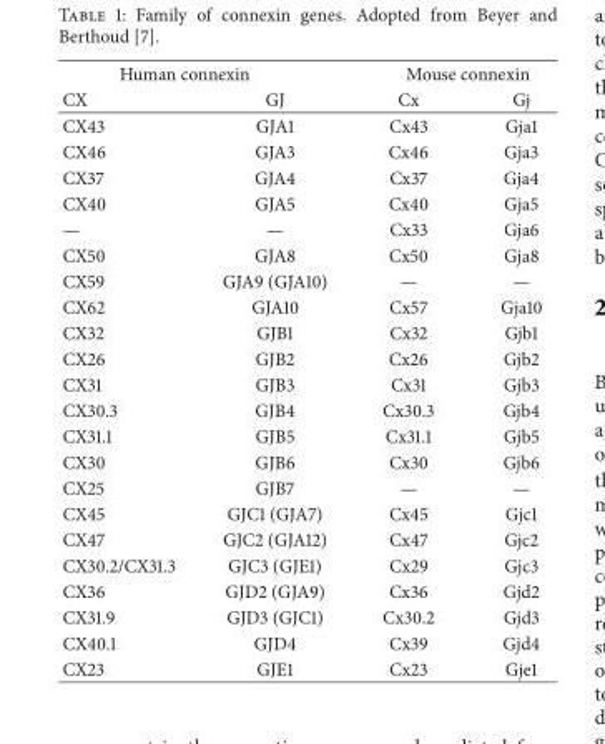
<table><thead><tr><td colspan="2">Human connexin</td><td colspan="2">Mouse connexin</td></tr><tr><td>CX</td><td>GJ</td><td>Cx</td><td>Gj</td></tr></thead><tbody><tr><td>CX43</td><td>GJA1</td><td>Cx43</td><td>Gja1</td></tr><tr><td>CX46</td><td>GJA3</td><td>Cx46</td><td>Gja3</td></tr><tr><td>CX37</td><td>GJA4</td><td>Cx37</td><td>Gja4</td></tr><tr><td>CX40</td><td>GJA5</td><td>Cx40</td><td>Gja5</td></tr><tr><td>—</td><td>—</td><td>Cx33</td><td>Gja6</td></tr><tr><td>CX50</td><td>GJA8</td><td>Cx50</td><td>Gja8</td></tr><tr><td>CX59</td><td>GJA9 (GJA10)</td><td>—</td><td>—</td></tr><tr><td>CX62</td><td>GJA10</td><td>Cx57</td><td>Gja10</td></tr><tr><td>CX32</td><td>GJB1</td><td>Cx32</td><td>Gjb1</td></tr><tr><td>CX26</td><td>GJB2</td><td>Cx26</td><td>Gjb2</td></tr><tr><td>CX31</td><td>GJB3</td><td>Cx31</td><td>Gjb3</td></tr><tr><td>CX30.3</td><td>GJB4</td><td>Cx30.3</td><td>Gjb4</td></tr><tr><td>CX31.1</td><td>GJB5</td><td>Cx31.1</td><td>Gjb5</td></tr><tr><td>CX30</td><td>GJB6</td><td>Cx30</td><td>Gjb6</td></tr><tr><td>CX25</td><td>GJB7</td><td>—</td><td>—</td></tr><tr><td>CX45</td><td>GJC1 (GJA7)</td><td>Cx45</td><td>Gjc1</td></tr><tr><td>CX47</td><td>GJC2 (GJA12)</td><td>Cx47</td><td>Gjc2</td></tr><tr><td>CX30.2/CX31.3</td><td>GJC3 (GJE1)</td><td>Cx29</td><td>Gjc3</td></tr><tr><td>CX36</td><td>GJD2 (GJA9)</td><td>Cx36</td><td>Gjd2</td></tr><tr><td>CX31.9</td><td>GJD3 (GJC1)</td><td>Cx30.2</td><td>Gjd3</td></tr><tr><td>CX40.1</td><td>GJD4</td><td>Cx39</td><td>Gjd4</td></tr><tr><td>CX23</td><td>GJE1</td><td>Cx23</td><td>Gje1</td></tr></tbody></table>